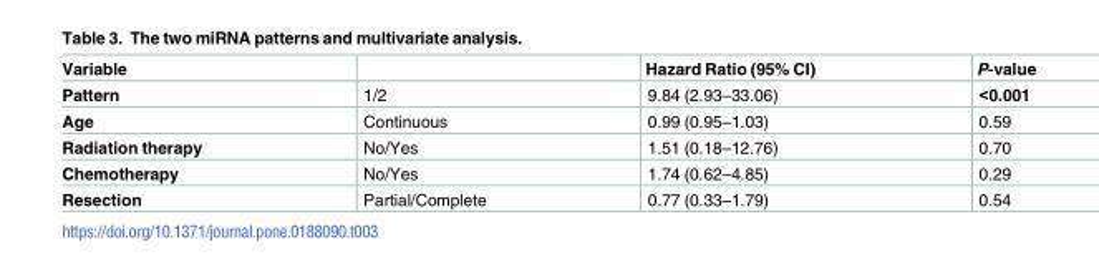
<table><thead><tr><td>Variable</td><td></td><td>Hazard Ratio (95% CI)</td><td>P-value</td></tr></thead><tbody><tr><td>Pattern</td><td>1/2</td><td>9.84 (2.93–33.06)</td><td>&lt;0.001</td></tr><tr><td>Age</td><td>Continuous</td><td>0.99 (0.95–1.03)</td><td>0.59</td></tr><tr><td>Radiation therapy</td><td>No/Yes</td><td>1.51 (0.18–12.76)</td><td>0.70</td></tr><tr><td>Chemotherapy</td><td>No/Yes</td><td>1.74 (0.62–4.85)</td><td>0.29</td></tr><tr><td>Resection</td><td>Partial/Complete</td><td>0.77 (0.33–1.79)</td><td>0.54</td></tr></tbody></table>